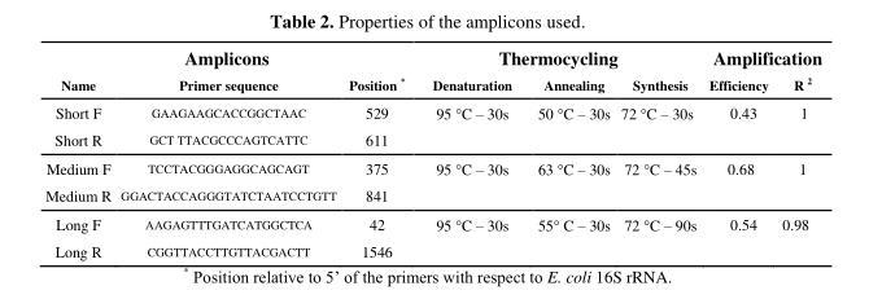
<table><thead><tr><td colspan="3">Amplicons</td><td colspan="3">Thermocycling</td><td colspan="2">Amplification</td></tr><tr><td>Name</td><td>Primer sequence</td><td>Position *</td><td>Denaturation</td><td>Annealing</td><td>Synthesis</td><td>Efficiency</td><td>R <sup>2</sup></td></tr></thead><tbody><tr><td>Short F</td><td>GAAGAAGCACCGGCTAAC</td><td>529</td><td>95 °C – 30s</td><td>50 °C – 30s</td><td>72 °C – 30s</td><td>0.43</td><td>1</td></tr><tr><td>Short R</td><td>GCT TTACGCCCAGTCATTC</td><td>611</td><td></td><td></td><td></td><td></td><td></td></tr><tr><td>Medium F</td><td>TCCTACGGGAGGCAGCAGT</td><td>375</td><td>95 °C – 30s</td><td>63 °C – 30s</td><td>72 °C – 45s</td><td>0.68</td><td>1</td></tr><tr><td>Medium R</td><td>GGACTACCAGGGTATCTAATCCTGTT</td><td>841</td><td></td><td></td><td></td><td></td><td></td></tr><tr><td>Long F</td><td>AAGAGTTTGATCATGGCTCA</td><td>42</td><td>95 °C – 30s</td><td>55C – 30s</td><td>72 °C – 90s</td><td>0.54</td><td>0.98</td></tr><tr><td>Long R</td><td>CGGTTACCTTGTTACGACTT</td><td>1546</td><td></td><td></td><td></td><td></td><td></td></tr></tbody></table>